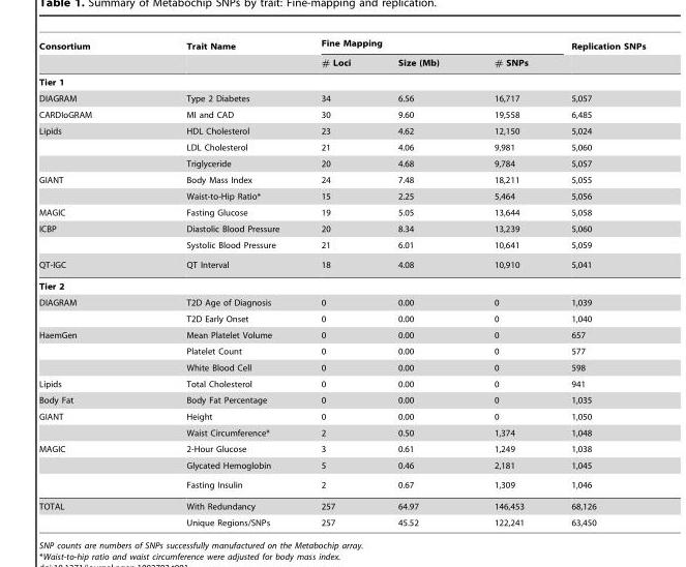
<table><thead><tr><td rowspan="2">Consortium</td><td rowspan="2">Trait Name</td><td colspan="3">Fine Mapping</td><td rowspan="2">Replication SNPs</td></tr><tr><td># Loci</td><td>Size (Mb)</td><td># SNPs</td></tr></thead><tbody><tr><td colspan="6">Tier 1</td></tr><tr><td>DIAGRAM</td><td>Type 2 Diabetes</td><td>34</td><td>6.56</td><td>16,717</td><td>5,057</td></tr><tr><td>CARDIoGRAM</td><td>MI and CAD</td><td>30</td><td>9.60</td><td>19,558</td><td>6,485</td></tr><tr><td rowspan="3">Lipids</td><td>HDL Cholesterol</td><td>23</td><td>4.62</td><td>12,150</td><td>5,024</td></tr><tr><td>LDL Cholesterol</td><td>21</td><td>4.06</td><td>9,981</td><td>5,060</td></tr><tr><td>Triglyceride</td><td>20</td><td>4.68</td><td>9,784</td><td>5,057</td></tr><tr><td rowspan="2">GIANT</td><td>Body Mass Index</td><td>24</td><td>7.48</td><td>18,211</td><td>5,055</td></tr><tr><td>Waist-to-Hip Ratio*</td><td>15</td><td>2.25</td><td>5,464</td><td>5,056</td></tr><tr><td>MAGIC</td><td>Fasting Glucose</td><td>19</td><td>5.05</td><td>13,644</td><td>5,058</td></tr><tr><td rowspan="2">ICBP</td><td>Diastolic Blood Pressure</td><td>20</td><td>8.34</td><td>13,239</td><td>5,060</td></tr><tr><td>Systolic Blood Pressure</td><td>21</td><td>6.01</td><td>10,641</td><td>5,059</td></tr><tr><td>QT-IGC</td><td>QT Interval</td><td>18</td><td>4.08</td><td>10,910</td><td>5,041</td></tr><tr><td colspan="6">Tier 2</td></tr><tr><td rowspan="2">DIAGRAM</td><td>T2D Age of Diagnosis</td><td>0</td><td>0.00</td><td>0</td><td>1,039</td></tr><tr><td>T2D Early Onset</td><td>0</td><td>0.00</td><td>0</td><td>1,040</td></tr><tr><td rowspan="3">HaemGen</td><td>Mean Platelet Volume</td><td>0</td><td>0.00</td><td>0</td><td>657</td></tr><tr><td>Platelet Count</td><td>0</td><td>0.00</td><td>0</td><td>577</td></tr><tr><td>White Blood Cell</td><td>0</td><td>0.00</td><td>0</td><td>598</td></tr><tr><td>Lipids</td><td>Total Cholesterol</td><td>0</td><td>0.00</td><td>0</td><td>941</td></tr><tr><td>Body Fat</td><td>Body Fat Percentage</td><td>0</td><td>0.00</td><td>0</td><td>1,035</td></tr><tr><td rowspan="2">GIANT</td><td>Height</td><td>0</td><td>0.00</td><td>0</td><td>1,050</td></tr><tr><td>Waist Circumference*</td><td>2</td><td>0.50</td><td>1,374</td><td>1,048</td></tr><tr><td rowspan="3">MAGIC</td><td>2-Hour Glucose</td><td>3</td><td>0.61</td><td>1,249</td><td>1,038</td></tr><tr><td>Glycated Hemoglobin</td><td>5</td><td>0.46</td><td>2,181</td><td>1,045</td></tr><tr><td>Fasting Insulin</td><td>2</td><td>0.67</td><td>1,309</td><td>1,046</td></tr><tr><td rowspan="2">TOTAL</td><td>With Redundancy</td><td>257</td><td>64.97</td><td>146,453</td><td>68,126</td></tr><tr><td>Unique Regions/SNPs</td><td>257</td><td>45.52</td><td>122,241</td><td>63,450</td></tr></tbody></table>